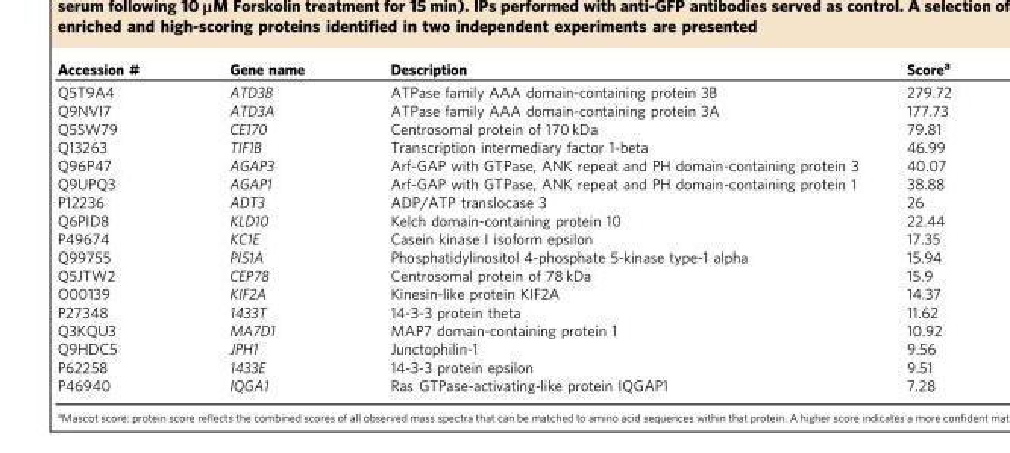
<table><thead><tr><td>Accession #</td><td>Gene name</td><td>Description</td><td>Score<sup>a</sup></td></tr></thead><tbody><tr><td>Q5T9A4</td><td>ATD3B</td><td>ATPase family AAA domain-containing protein 3B</td><td>279.72</td></tr><tr><td>Q9NVI7</td><td>ATD3A</td><td>ATPase family AAA domain-containing protein 3A</td><td>177.73</td></tr><tr><td>Q5SW79</td><td>CE170</td><td>Centrosomal protein of 170 kDa</td><td>79.81</td></tr><tr><td>Q13263</td><td>TIF1B</td><td>Transcription intermediary factor 1-beta</td><td>46.99</td></tr><tr><td>Q96P47</td><td>AGAP3</td><td>Arf-GAP with GTPase, ANK repeat and PH domain-containing protein 3</td><td>40.07</td></tr><tr><td>Q9UPQ3</td><td>AGAP1</td><td>Arf-GAP with GTPase, ANK repeat and PH domain-containing protein 1</td><td>38.88</td></tr><tr><td>P12236</td><td>ADT3</td><td>ADP/ATP translocase 3</td><td>26</td></tr><tr><td>Q6PID8</td><td>KLD10</td><td>Kelch domain-containing protein 10</td><td>22.44</td></tr><tr><td>P49674</td><td>KC1E</td><td>Casein kinase I isoform epsilon</td><td>17.35</td></tr><tr><td>Q99755</td><td>PI51A</td><td>Phosphatidylinositol 4-phosphate 5-kinase type-1 alpha</td><td>15.94</td></tr><tr><td>Q5JTW2</td><td>CEP78</td><td>Centrosomal protein of 78 kDa</td><td>15.9</td></tr><tr><td>O00139</td><td>KIF2A</td><td>Kinesin-like protein KIF2A</td><td>14.37</td></tr><tr><td>P27348</td><td>1433T</td><td>14-3-3 protein theta</td><td>11.62</td></tr><tr><td>Q3KQU3</td><td>MA7D1</td><td>MAP7 domain-containing protein 1</td><td>10.92</td></tr><tr><td>Q9HDC5</td><td>JPH1</td><td>Junctophilin-1</td><td>9.56</td></tr><tr><td>P62258</td><td>1433E</td><td>14-3-3 protein epsilon</td><td>9.51</td></tr><tr><td>P46940</td><td>IQGA1</td><td>Ras GTPase-activating-like protein IQGAP1</td><td>7.28</td></tr></tbody></table>